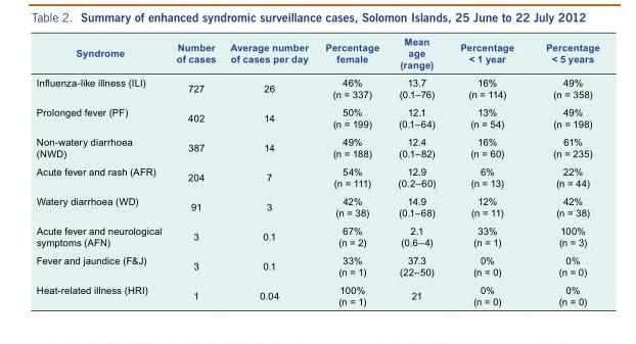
<table><thead><tr><td>Syndrome</td><td>Number of cases</td><td>Average number of cases per day</td><td>Percentage female</td><td>Mean age (range)</td><td>Percentage &lt; 1 year</td><td>Percentage &lt; 5 years</td></tr></thead><tbody><tr><td>Influenza-like illness (ILI)</td><td>727</td><td>26</td><td>46% (n = 337)</td><td>13.7 (0.1–76)</td><td>16% (n = 114)</td><td>49% (n = 358)</td></tr><tr><td>Prolonged fever (PF)</td><td>402</td><td>14</td><td>50% (n = 199)</td><td>12.1 (0.1–64)</td><td>13% (n = 54)</td><td>49% (n = 198)</td></tr><tr><td>Non-watery diarrhoea (NWD)</td><td>387</td><td>14</td><td>49% (n = 188)</td><td>12.4 (0.1–82)</td><td>16% (n = 60)</td><td>61% (n = 235)</td></tr><tr><td>Acute fever and rash (AFR)</td><td>204</td><td>7</td><td>54% (n = 111)</td><td>12.9 (0.2–60)</td><td>6% (n = 13)</td><td>22% (n = 44)</td></tr><tr><td>Watery diarrhoea (WD)</td><td>91</td><td>3</td><td>42% (n = 38)</td><td>14.9 (0.1–68)</td><td>12% (n = 11)</td><td>42% (n = 38)</td></tr><tr><td>Acute fever and neurological symptoms (AFN)</td><td>3</td><td>0.1</td><td>67% (n = 2)</td><td>2.1 (0.6–4)</td><td>33% (n = 1)</td><td>100% (n = 3)</td></tr><tr><td>Fever and jaundice (F&amp;J)</td><td>3</td><td>0.1</td><td>33% (n = 1)</td><td>37.3 (22–50)</td><td>0% (n = 0)</td><td>0% (n = 0)</td></tr><tr><td>Heat-related illness (HRI)</td><td>1</td><td>0.04</td><td>100% (n = 1)</td><td>21</td><td>0% (n = 0)</td><td>0% (n = 0)</td></tr></tbody></table>